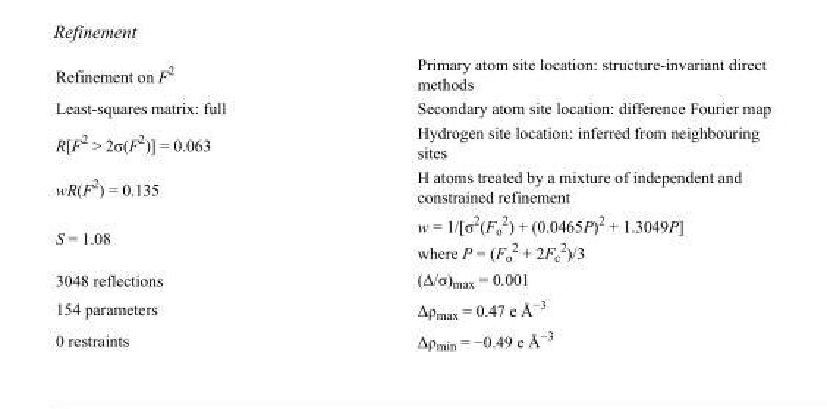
<table><tbody><tr><td>Refinement on F<sup>2</sup></td><td>Primary atom site location: structure-invariant direct methods</td></tr><tr><td>Least-squares matrix: full</td><td>Secondary atom site location: difference Fourier map</td></tr><tr><td>R[F<sup>2</sup> &gt; 2σ(F<sup>2</sup>)] = 0.063</td><td>Hydrogen site location: inferred from neighbouring sites</td></tr><tr><td>wR(F<sup>2</sup>) = 0.135</td><td>H atoms treated by a mixture of independent and constrained refinement</td></tr><tr><td>S = 1.08</td><td>w = 1/[σ<sup>2</sup>(F<sub>o</sub> <sup>2</sup>) + (0.0465P)<sup>2</sup> + 1.3049P] where P = (F<sub>o</sub> <sup>2</sup> + 2F<sub>c</sub> <sup>2</sup>)/3</td></tr><tr><td>3048 reflections</td><td>(Δ/σ)<sub>max</sub> = 0.001</td></tr><tr><td>154 parameters</td><td>Δρ<sub>max</sub> = 0.47 e Å<sup>−3</sup></td></tr><tr><td>0 restraints</td><td>Δρ<sub>min</sub> = −0.49 e Å<sup>−3</sup></td></tr></tbody></table>